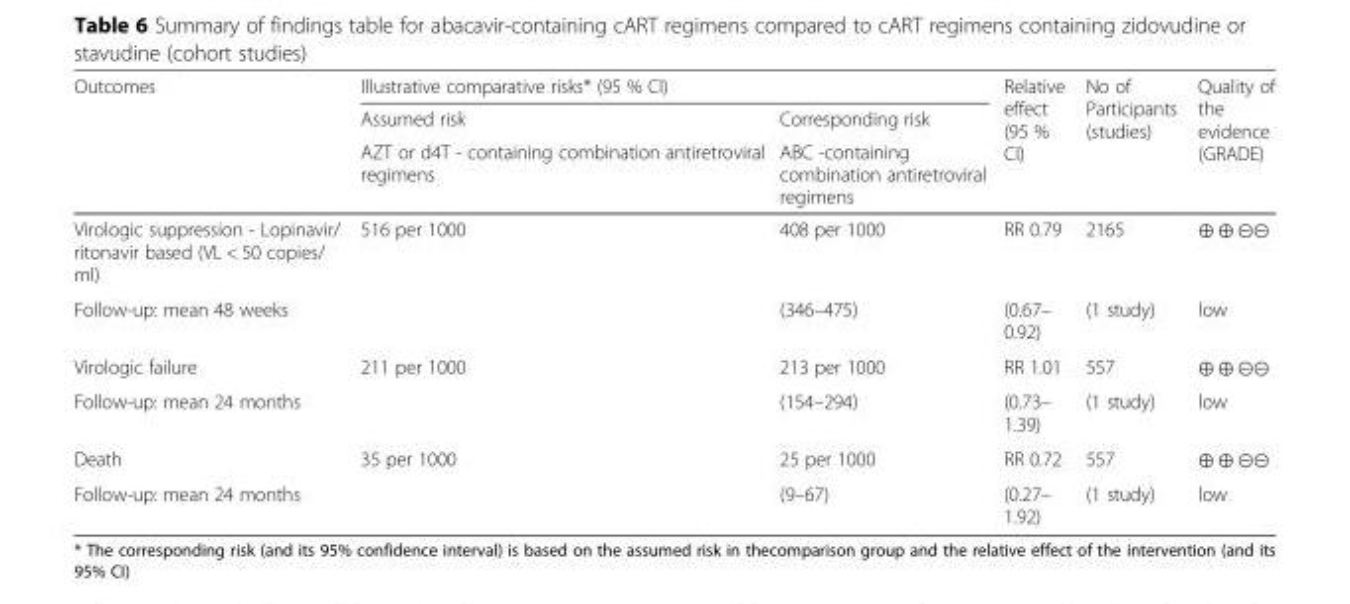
<table><thead><tr><td rowspan="3">Outcomes</td><td colspan="2">Illustrative comparative risks* (95 % CI)</td><td rowspan="3">Relative effect (95 % CI)</td><td rowspan="3">No of Participants (studies)</td><td rowspan="3">Quality of the evidence (GRADE)</td></tr><tr><td rowspan="2">Assumed risk AZT or d4T - containing combination antiretroviral regimens</td><td rowspan="2">Corresponding risk ABC -containing combination antiretroviral regimens</td></tr><tr></tr></thead><tbody><tr><td>Virologic suppression - Lopinavir/ ritonavir based (VL &lt; 50 copies/ ml)</td><td rowspan="2">516 per 1000</td><td>408 per 1000</td><td>RR 0.79</td><td>2165</td><td>⊕ ⊕ ⊝⊝</td></tr><tr><td>Follow-up: mean 48 weeks</td><td>(346–475)</td><td>(0.67– 0.92)</td><td>(1 study)</td><td>low</td></tr><tr><td>Virologic failure</td><td rowspan="2">211 per 1000</td><td>213 per 1000</td><td>RR 1.01</td><td>557</td><td>⊕ ⊕ ⊝⊝</td></tr><tr><td>Follow-up: mean 24 months</td><td>(154–294)</td><td>(0.73– 1.39)</td><td>(1 study)</td><td>low</td></tr><tr><td>Death</td><td rowspan="2">35 per 1000</td><td>25 per 1000</td><td>RR 0.72</td><td>557</td><td>⊕ ⊕ ⊝⊝</td></tr><tr><td>Follow-up: mean 24 months</td><td>(9–67)</td><td>(0.27– 1.92)</td><td>(1 study)</td><td>low</td></tr></tbody></table>